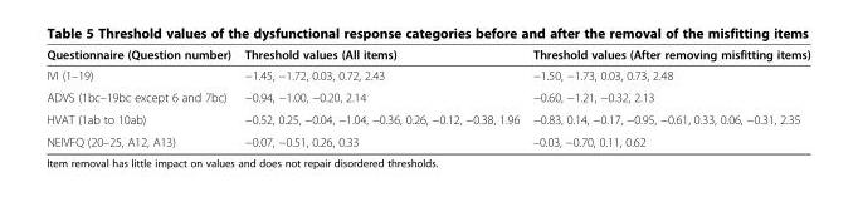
<table><thead><tr><td>Questionnaire (Question number)</td><td>Threshold values (All items)</td><td>Threshold values (After removing misfitting items)</td></tr></thead><tbody><tr><td>IVI (1–19)</td><td>−1.45, −1.72, 0.03, 0.72, 2.43</td><td>−1.50, −1.73, 0.03, 0.73, 2.48</td></tr><tr><td>ADVS (1bc–19bc except 6 and 7bc)</td><td>−0.94, −1.00, −0.20, 2.14</td><td>−0.60, −1.21, −0.32, 2.13</td></tr><tr><td>HVAT (1ab to 10ab)</td><td>−0.52, 0.25, −0.04, −1.04, −0.36, 0.26, −0.12, −0.38, 1.96</td><td>−0.83, 0.14, −0.17, −0.95, −0.61, 0.33, 0.06, −0.31, 2.35</td></tr><tr><td>NEIVFQ (20–25, A12, A13)</td><td>−0.07, −0.51, 0.26, 0.33</td><td>–0.03, −0.70, 0.11, 0.62</td></tr></tbody></table>